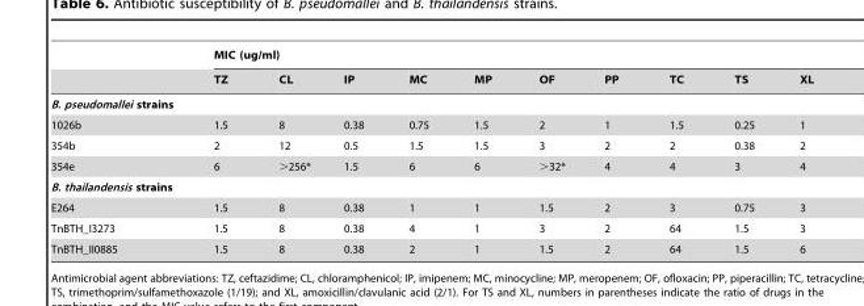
<table><thead><tr><td rowspan="2"></td><td colspan="10">MIC (ug/ml)</td></tr><tr><td>TZ</td><td>CL</td><td>IP</td><td>MC</td><td>MP</td><td>OF</td><td>PP</td><td>TC</td><td>TS</td><td>XL</td></tr></thead><tbody><tr><td colspan="11">B. pseudomallei strains</td></tr><tr><td>1026b</td><td>1.5</td><td>8</td><td>0.38</td><td>0.75</td><td>1.5</td><td>2</td><td>1</td><td>1.5</td><td>0.25</td><td>1</td></tr><tr><td>354b</td><td>2</td><td>12</td><td>0.5</td><td>1.5</td><td>1.5</td><td>3</td><td>2</td><td>2</td><td>0.38</td><td>2</td></tr><tr><td>354e</td><td>6</td><td>&gt;256*</td><td>1.5</td><td>6</td><td>6</td><td>&gt;32*</td><td>4</td><td>4</td><td>3</td><td>4</td></tr><tr><td colspan="11">B. thailandensis strains</td></tr><tr><td>E264</td><td>1.5</td><td>8</td><td>0.38</td><td>1</td><td>1</td><td>1.5</td><td>2</td><td>3</td><td>0.75</td><td>3</td></tr><tr><td>TnBTH_I3273</td><td>1.5</td><td>8</td><td>0.38</td><td>4</td><td>1</td><td>3</td><td>2</td><td>64</td><td>1.5</td><td>3</td></tr><tr><td>TnBTH_II0885</td><td>1.5</td><td>8</td><td>0.38</td><td>2</td><td>1</td><td>1.5</td><td>2</td><td>64</td><td>1.5</td><td>6</td></tr></tbody></table>